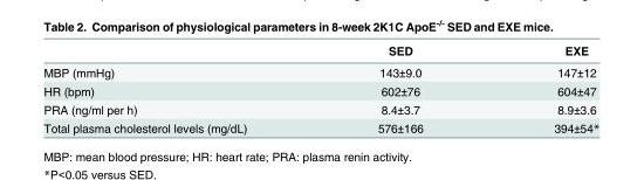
<table><thead><tr><td></td><td>SED</td><td>EXE</td></tr></thead><tbody><tr><td>MBP (mmHg)</td><td>143±9.0</td><td>147±12</td></tr><tr><td>HR (bpm)</td><td>602±76</td><td>604±47</td></tr><tr><td>PRA (ng/ml per h)</td><td>8.4±3.7</td><td>8.9±3.6</td></tr><tr><td>Total plasma cholesterol levels (mg/dL)</td><td>576±166</td><td>394±54*</td></tr></tbody></table>